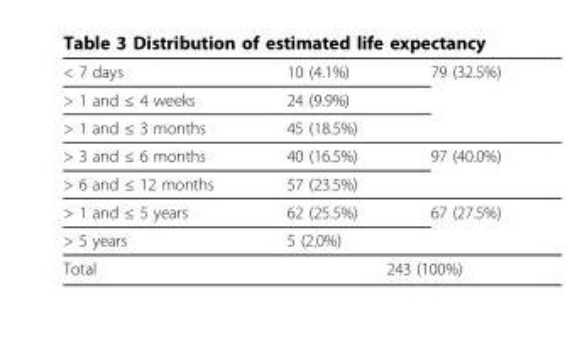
<table><thead><tr><td rowspan="3">&lt; 7 days &gt; 1 and ≤ 4 weeks &gt; 1 and ≤ 3 months</td><td rowspan="3">10 (4.1%) 24 (9.9%) 45 (18.5%)</td><td rowspan="3">79 (32.5%)</td></tr><tr></tr><tr></tr></thead><tbody><tr><td>&gt; 3 and ≤ 6 months</td><td>40 (16.5%)</td><td>97 (40.0%)</td></tr><tr><td>&gt; 6 and ≤ 12 months</td><td>57 (23.5%)</td><td></td></tr><tr><td>&gt; 1 and ≤ 5 years</td><td>62 (25.5%)</td><td>67 (27.5%)</td></tr><tr><td>&gt; 5 years</td><td>5 (2.0%)</td><td></td></tr><tr><td>Total</td><td colspan="2">243 (100%)</td></tr></tbody></table>